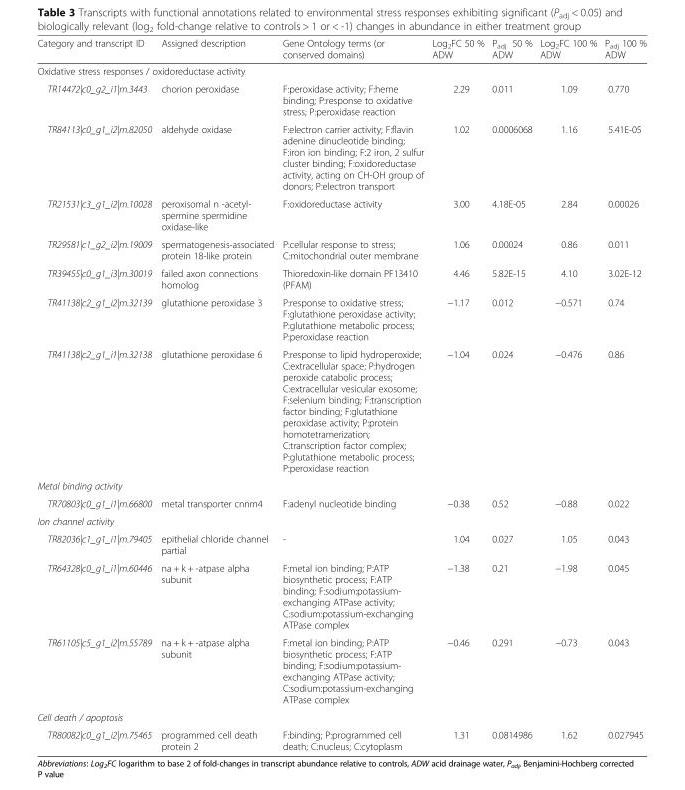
<table><thead><tr><td>Category and transcript ID</td><td>Assigned description</td><td>Gene Ontology terms (or conserved domains)</td><td>Log<sub>2</sub>FC 50 % ADW</td><td>P<sub>adj</sub> 50 % ADW</td><td>Log<sub>2</sub>FC 100 % ADW</td><td>P<sub>adj</sub> 100 % ADW</td></tr></thead><tbody><tr><td colspan="7">Oxidative stress responses / oxidoreductase activity</td></tr><tr><td>TR14472|c0_g2_i1|m.3443</td><td>chorion peroxidase</td><td>F:peroxidase activity; F:heme binding; P:response to oxidative stress; P:peroxidase reaction</td><td>2.29</td><td>0.011</td><td>1.09</td><td>0.770</td></tr><tr><td>TR84113|c0_g1_i2|m.82050</td><td>aldehyde oxidase</td><td>F:electron carrier activity; F:flavin adenine dinucleotide binding; F:iron ion binding; F:2 iron, 2 sulfur cluster binding; F:oxidoreductase activity, acting on CH-OH group of donors; P:electron transport</td><td>1.02</td><td>0.0006068</td><td>1.16</td><td>5.41E-05</td></tr><tr><td>TR21531|c3_g1_i2|m.10028</td><td>peroxisomal n -acetyl- spermine spermidine oxidase-like</td><td>F:oxidoreductase activity</td><td>3.00</td><td>4.18E-05</td><td>2.84</td><td>0.00026</td></tr><tr><td>TR29581|c1_g2_i2|m.19009</td><td>spermatogenesis-associated protein 18-like protein</td><td>P:cellular response to stress; C:mitochondrial outer membrane</td><td>1.06</td><td>0.00024</td><td>0.86</td><td>0.011</td></tr><tr><td>TR39455|c0_g1_i3|m.30019</td><td>failed axon connections homolog</td><td>Thioredoxin-like domain PF13410 (PFAM)</td><td>4.46</td><td>5.82E-15</td><td>4.10</td><td>3.02E-12</td></tr><tr><td>TR41138|c2_g1_i2|m.32139</td><td>glutathione peroxidase 3</td><td>P:response to oxidative stress; F:glutathione peroxidase activity; P:glutathione metabolic process; P:peroxidase reaction</td><td>−1.17</td><td>0.012</td><td>−0.571</td><td>0.74</td></tr><tr><td>TR41138|c2_g1_i1|m.32138</td><td>glutathione peroxidase 6</td><td>P:response to lipid hydroperoxide; C:extracellular space; P:hydrogen peroxide catabolic process; C:extracellular vesicular exosome; F:selenium binding; F:transcription factor binding; F:glutathione peroxidase activity; P:protein homotetramerization; C:transcription factor complex; P:glutathione metabolic process; P:peroxidase reaction</td><td>−1.04</td><td>0.024</td><td>−0.476</td><td>0.86</td></tr><tr><td colspan="7">Metal binding activity</td></tr><tr><td>TR70803|c0_g1_i1|m.66800</td><td>metal transporter cnnm4</td><td>F:adenyl nucleotide binding</td><td>−0.38</td><td>0.52</td><td>−0.88</td><td>0.022</td></tr><tr><td colspan="7">Ion channel activity</td></tr><tr><td>TR82036|c1_g1_i1|m.79405</td><td>epithelial chloride channel partial</td><td>-</td><td>1.04</td><td>0.027</td><td>1.05</td><td>0.043</td></tr><tr><td>TR64328|c0_g1_i1|m.60446</td><td>na + k + -atpase alpha subunit</td><td>F:metal ion binding; P:ATP biosynthetic process; F:ATP binding; F:sodium:potassium- exchanging ATPase activity; C:sodium:potassium-exchanging ATPase complex</td><td>−1.38</td><td>0.21</td><td>−1.98</td><td>0.045</td></tr><tr><td>TR61105|c5_g1_i2|m.55789</td><td>na + k + -atpase alpha subunit</td><td>F:metal ion binding; P:ATP biosynthetic process; F:ATP binding; F:sodium:potassium- exchanging ATPase activity; C:sodium:potassium-exchanging ATPase complex</td><td>−0.46</td><td>0.291</td><td>−0.73</td><td>0.043</td></tr><tr><td colspan="7">Cell death / apoptosis</td></tr><tr><td>TR80082|c0_g1_i2|m.75465</td><td>programmed cell death protein 2</td><td>F:binding; P:programmed cell death; C:nucleus; C:cytoplasm</td><td>1.31</td><td>0.0814986</td><td>1.62</td><td>0.027945</td></tr></tbody></table>